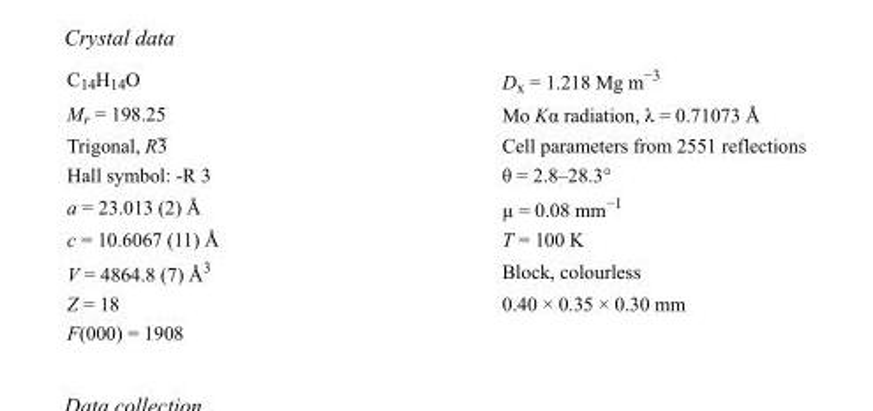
<table><tbody><tr><td>C<sub>14</sub>H<sub>14</sub>O</td><td>D<sub>x</sub> = 1.218 Mg m<sup>−3</sup></td></tr><tr><td>M<sub>r</sub> = 198.25</td><td>Mo Kα radiation, λ = 0.71073 Å</td></tr><tr><td>Trigonal, R3</td><td>Cell parameters from 2551 reflections</td></tr><tr><td>Hall symbol: -R 3</td><td>θ = 2.8–28.3°</td></tr><tr><td>a = 23.013 (2) Å</td><td>µ = 0.08 mm<sup>−1</sup></td></tr><tr><td>c = 10.6067 (11) Å</td><td>T = 100 K</td></tr><tr><td>V = 4864.8 (7) Å<sup>3</sup></td><td>Block, colourless</td></tr><tr><td>Z = 18</td><td>0.40 × 0.35 × 0.30 mm</td></tr><tr><td>F(000) = 1908</td><td></td></tr></tbody></table>